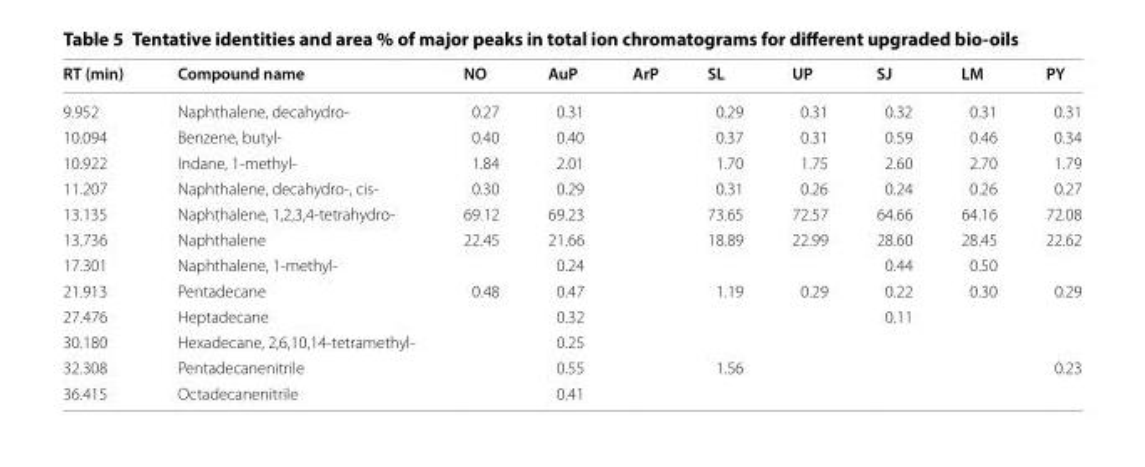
<table><thead><tr><td>RT (min)</td><td>Compound name</td><td>NO</td><td>AuP</td><td>ArP</td><td>SL</td><td>UP</td><td>SJ</td><td>LM</td><td>PY</td></tr></thead><tbody><tr><td>9.952</td><td>Naphthalene, decahydro‑</td><td>0.27</td><td>0.31</td><td></td><td>0.29</td><td>0.31</td><td>0.32</td><td>0.31</td><td>0.31</td></tr><tr><td>10.094</td><td>Benzene, butyl‑</td><td>0.40</td><td>0.40</td><td></td><td>0.37</td><td>0.31</td><td>0.59</td><td>0.46</td><td>0.34</td></tr><tr><td>10.922</td><td>Indane, 1‑methyl‑</td><td>1.84</td><td>2.01</td><td></td><td>1.70</td><td>1.75</td><td>2.60</td><td>2.70</td><td>1.79</td></tr><tr><td>11.207</td><td>Naphthalene, decahydro‑, cis‑</td><td>0.30</td><td>0.29</td><td></td><td>0.31</td><td>0.26</td><td>0.24</td><td>0.26</td><td>0.27</td></tr><tr><td>13.135</td><td>Naphthalene, 1,2,3,4‑tetrahydro‑</td><td>69.12</td><td>69.23</td><td></td><td>73.65</td><td>72.57</td><td>64.66</td><td>64.16</td><td>72.08</td></tr><tr><td>13.736</td><td>Naphthalene</td><td>22.45</td><td>21.66</td><td></td><td>18.89</td><td>22.99</td><td>28.60</td><td>28.45</td><td>22.62</td></tr><tr><td>17.301</td><td>Naphthalene, 1‑methyl‑</td><td></td><td>0.24</td><td></td><td></td><td></td><td>0.44</td><td>0.50</td><td></td></tr><tr><td>21.913</td><td>Pentadecane</td><td>0.48</td><td>0.47</td><td></td><td>1.19</td><td>0.29</td><td>0.22</td><td>0.30</td><td>0.29</td></tr><tr><td>27.476</td><td>Heptadecane</td><td></td><td>0.32</td><td></td><td></td><td></td><td>0.11</td><td></td><td></td></tr><tr><td>30.180</td><td>Hexadecane, 2,6,10,14‑tetramethyl‑</td><td></td><td>0.25</td><td></td><td></td><td></td><td></td><td></td><td></td></tr><tr><td>32.308</td><td>Pentadecanenitrile</td><td></td><td>0.55</td><td></td><td>1.56</td><td></td><td></td><td></td><td>0.23</td></tr><tr><td>36.415</td><td>Octadecanenitrile</td><td></td><td>0.41</td><td></td><td></td><td></td><td></td><td></td><td></td></tr></tbody></table>